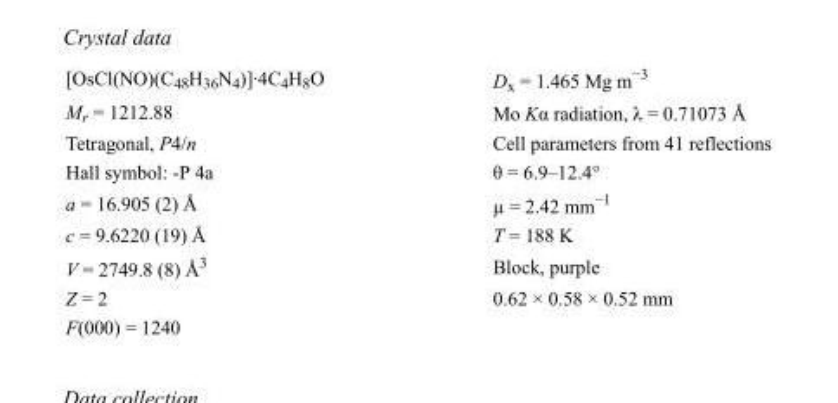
<table><tbody><tr><td>[OsCl(NO)(C<sub>48</sub>H<sub>36</sub>N<sub>4</sub>)]·4C<sub>4</sub>H<sub>8</sub>O</td><td>D<sub>x</sub> = 1.465 Mg m<sup>−3</sup></td></tr><tr><td>M<sub>r</sub> = 1212.88</td><td>Mo Kα radiation, λ = 0.71073 Å</td></tr><tr><td>Tetragonal, P4/n</td><td>Cell parameters from 41 reflections</td></tr><tr><td>Hall symbol: -P 4a</td><td>θ = 6.9–12.4°</td></tr><tr><td>a = 16.905 (2) Å</td><td>µ = 2.42 mm<sup>−1</sup></td></tr><tr><td>c = 9.6220 (19) Å</td><td>T = 188 K</td></tr><tr><td>V = 2749.8 (8) Å<sup>3</sup></td><td>Block, purple</td></tr><tr><td>Z = 2</td><td>0.62 × 0.58 × 0.52 mm</td></tr><tr><td>F(000) = 1240</td><td></td></tr></tbody></table>